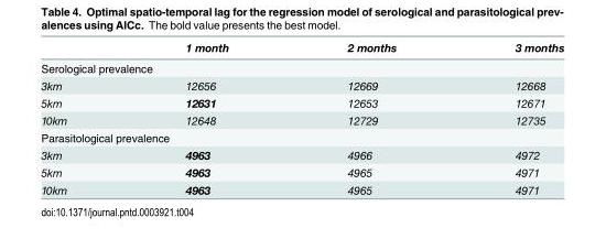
<table><thead><tr><td></td><td>1 month</td><td>2 months</td><td>3 months</td></tr></thead><tbody><tr><td colspan="4">Serological prevalence</td></tr><tr><td>3km</td><td>12656</td><td>12669</td><td>12668</td></tr><tr><td>5km</td><td>12631</td><td>12653</td><td>12671</td></tr><tr><td>10km</td><td>12648</td><td>12729</td><td>12735</td></tr><tr><td colspan="4">Parasitological prevalence</td></tr><tr><td>3km</td><td>4963</td><td>4966</td><td>4972</td></tr><tr><td>5km</td><td>4963</td><td>4965</td><td>4971</td></tr><tr><td>10km</td><td>4963</td><td>4965</td><td>4971</td></tr></tbody></table>